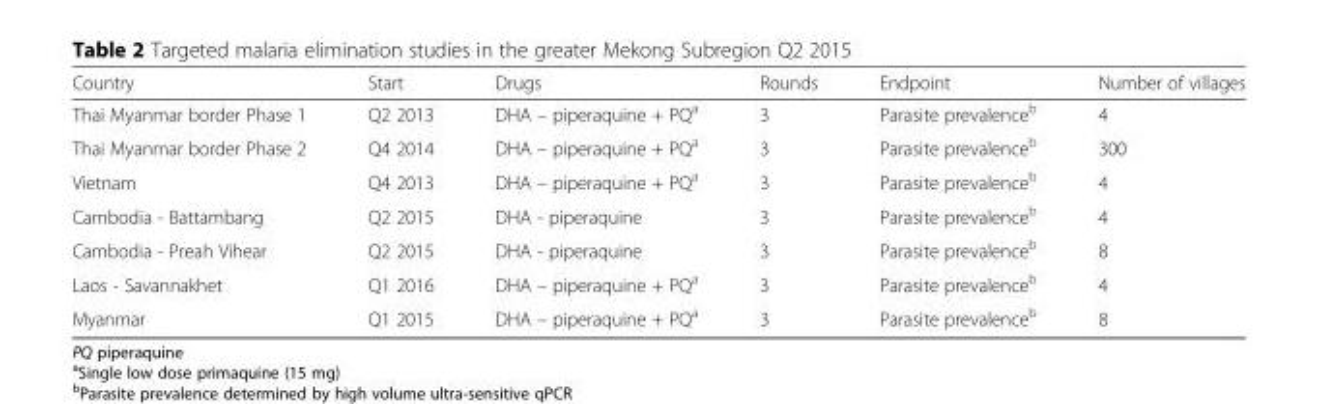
<table><thead><tr><td>Country</td><td>Start</td><td>Drugs</td><td>Rounds</td><td>Endpoint</td><td>Number of villages</td></tr></thead><tbody><tr><td>Thai Myanmar border Phase 1</td><td>Q2 2013</td><td>DHA – piperaquine + PQ<sup>a</sup></td><td>3</td><td>Parasite prevalence<sup>b</sup></td><td>4</td></tr><tr><td>Thai Myanmar border Phase 2</td><td>Q4 2014</td><td>DHA – piperaquine + PQ<sup>a</sup></td><td>3</td><td>Parasite prevalence<sup>b</sup></td><td>300</td></tr><tr><td>Vietnam</td><td>Q4 2013</td><td>DHA – piperaquine + PQ<sup>a</sup></td><td>3</td><td>Parasite prevalence<sup>b</sup></td><td>4</td></tr><tr><td>Cambodia - Battambang</td><td>Q2 2015</td><td>DHA - piperaquine</td><td>3</td><td>Parasite prevalence<sup>b</sup></td><td>4</td></tr><tr><td>Cambodia - Preah Vihear</td><td>Q2 2015</td><td>DHA - piperaquine</td><td>3</td><td>Parasite prevalence<sup>b</sup></td><td>8</td></tr><tr><td>Laos - Savannakhet</td><td>Q1 2016</td><td>DHA – piperaquine + PQ<sup>a</sup></td><td>3</td><td>Parasite prevalence<sup>b</sup></td><td>4</td></tr><tr><td>Myanmar</td><td>Q1 2015</td><td>DHA – piperaquine + PQ<sup>a</sup></td><td>3</td><td>Parasite prevalence<sup>b</sup></td><td>8</td></tr></tbody></table>